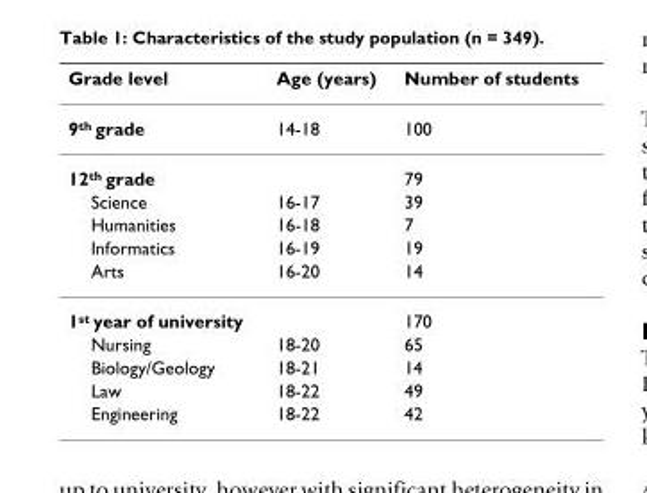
<table><thead><tr><td>Grade level</td><td>Age (years)</td><td>Number of students</td></tr></thead><tbody><tr><td>9<sup>th</sup> grade</td><td>14-18</td><td>100</td></tr><tr><td>12<sup>th</sup> grade</td><td></td><td>79</td></tr><tr><td>Science</td><td>16-17</td><td>39</td></tr><tr><td>Humanities</td><td>16-18</td><td>7</td></tr><tr><td>Informatics</td><td>16-19</td><td>19</td></tr><tr><td>Arts</td><td>16-20</td><td>14</td></tr><tr><td>1<sup>st</sup> year of university</td><td></td><td>170</td></tr><tr><td>Nursing</td><td>18-20</td><td>65</td></tr><tr><td>Biology/Geology</td><td>18-21</td><td>14</td></tr><tr><td>Law</td><td>18-22</td><td>49</td></tr><tr><td>Engineering</td><td>18-22</td><td>42</td></tr></tbody></table>